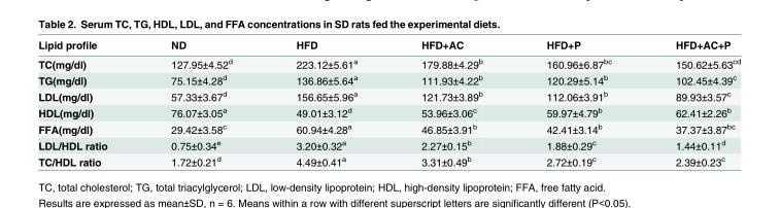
<table><thead><tr><td>Lipid profile</td><td>ND</td><td>HFD</td><td>HFD+AC</td><td>HFD+P</td><td>HFD+AC+P</td></tr></thead><tbody><tr><td>TC(mg/dl)</td><td>127.95±4.52<sup>d</sup></td><td>223.12±5.61<sup>a</sup></td><td>179.88±4.29<sup>b</sup></td><td>160.96±6.87<sup>bc</sup></td><td>150.62±5.63<sup>cd</sup></td></tr><tr><td>TG(mg/dl)</td><td>75.15±4.28<sup>d</sup></td><td>136.86±5.64<sup>a</sup></td><td>111.93±4.22<sup>b</sup></td><td>120.29±5.14<sup>b</sup></td><td>102.45±4.39<sup>c</sup></td></tr><tr><td>LDL(mg/dl)</td><td>57.33±3.67<sup>d</sup></td><td>156.65±5.96<sup>a</sup></td><td>121.73±3.89<sup>b</sup></td><td>112.06±3.91<sup>b</sup></td><td>89.93±3.57<sup>c</sup></td></tr><tr><td>HDL(mg/dl)</td><td>76.07±3.05<sup>a</sup></td><td>49.01±3.12<sup>d</sup></td><td>53.96±3.06<sup>c</sup></td><td>59.97±4.79<sup>b</sup></td><td>62.41±2.26<sup>b</sup></td></tr><tr><td>FFA(mg/dl)</td><td>29.42±3.58<sup>c</sup></td><td>60.94±4.28<sup>a</sup></td><td>46.85±3.91<sup>b</sup></td><td>42.41±3.14<sup>b</sup></td><td>37.37±3.87<sup>bc</sup></td></tr><tr><td>LDL/HDL ratio</td><td>0.75±0.34<sup>e</sup></td><td>3.20±0.32<sup>a</sup></td><td>2.27±0.15<sup>b</sup></td><td>1.88±0.29<sup>c</sup></td><td>1.44±0.11<sup>d</sup></td></tr><tr><td>TC/HDL ratio</td><td>1.72±0.21<sup>d</sup></td><td>4.49±0.41<sup>a</sup></td><td>3.31±0.49<sup>b</sup></td><td>2.72±0.19<sup>c</sup></td><td>2.39±0.23<sup>c</sup></td></tr></tbody></table>